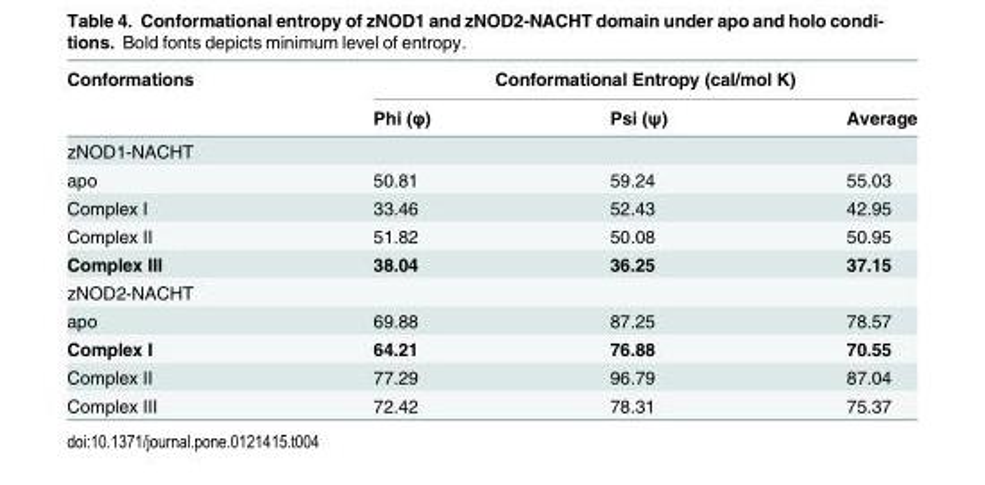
<table><thead><tr><td rowspan="2">Conformations</td><td colspan="3">Conformational Entropy (cal/mol K)</td></tr><tr><td>Phi (φ)</td><td>Psi (ψ)</td><td>Average</td></tr></thead><tbody><tr><td colspan="4">zNOD1-NACHT</td></tr><tr><td>apo</td><td>50.81</td><td>59.24</td><td>55.03</td></tr><tr><td>Complex I</td><td>33.46</td><td>52.43</td><td>42.95</td></tr><tr><td>Complex II</td><td>51.82</td><td>50.08</td><td>50.95</td></tr><tr><td>Complex III</td><td>38.04</td><td>36.25</td><td>37.15</td></tr><tr><td colspan="4">zNOD2-NACHT</td></tr><tr><td>apo</td><td>69.88</td><td>87.25</td><td>78.57</td></tr><tr><td>Complex I</td><td>64.21</td><td>76.88</td><td>70.55</td></tr><tr><td>Complex II</td><td>77.29</td><td>96.79</td><td>87.04</td></tr><tr><td>Complex III</td><td>72.42</td><td>78.31</td><td>75.37</td></tr></tbody></table>